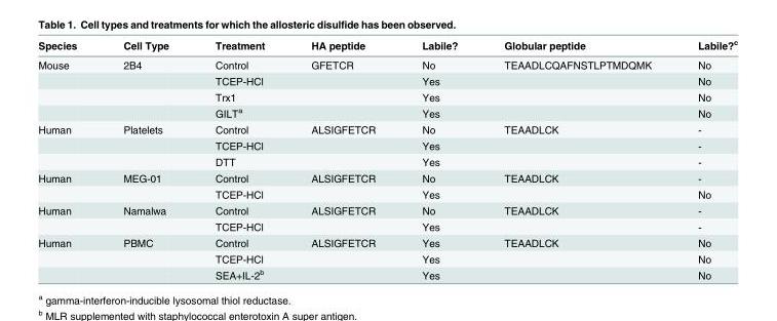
<table><thead><tr><td>Species</td><td>Cell Type</td><td>Treatment</td><td>HA peptide</td><td>Labile?</td><td>Globular peptide</td><td>Labile?<sup>c</sup></td></tr></thead><tbody><tr><td rowspan="4">Mouse</td><td>2B4</td><td>Control</td><td>GFETCR</td><td>No</td><td>TEAADLCQAFNSTLPTMDQMK</td><td>No</td></tr><tr><td></td><td>TCEP-HCl</td><td></td><td>Yes</td><td></td><td>No</td></tr><tr><td></td><td>Trx1</td><td></td><td>Yes</td><td></td><td>No</td></tr><tr><td></td><td>GILT<sup>a</sup></td><td></td><td>Yes</td><td></td><td>No</td></tr><tr><td rowspan="3">Human</td><td>Platelets</td><td>Control</td><td>ALSIGFETCR</td><td>No</td><td>TEAADLCK</td><td>-</td></tr><tr><td></td><td>TCEP-HCl</td><td></td><td>Yes</td><td></td><td>-</td></tr><tr><td></td><td>DTT</td><td></td><td>Yes</td><td></td><td>-</td></tr><tr><td rowspan="2">Human</td><td>MEG-01</td><td>Control</td><td>ALSIGFETCR</td><td>No</td><td>TEAADLCK</td><td>-</td></tr><tr><td></td><td>TCEP-HCl</td><td></td><td>Yes</td><td></td><td>No</td></tr><tr><td rowspan="2">Human</td><td>Namalwa</td><td>Control</td><td>ALSIGFETCR</td><td>No</td><td>TEAADLCK</td><td>-</td></tr><tr><td></td><td>TCEP-HCl</td><td></td><td>Yes</td><td></td><td>-</td></tr><tr><td rowspan="3">Human</td><td>PBMC</td><td>Control</td><td>ALSIGFETCR</td><td>Yes</td><td>TEAADLCK</td><td>No</td></tr><tr><td></td><td>TCEP-HCl</td><td></td><td>Yes</td><td></td><td>No</td></tr><tr><td></td><td>SEA+IL-2<sup>b</sup></td><td></td><td>Yes</td><td></td><td>No</td></tr></tbody></table>